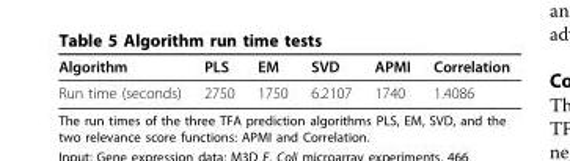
<table><thead><tr><td>Algorithm</td><td>PLS</td><td>EM</td><td>SVD</td><td>APMI</td><td>Correlation</td></tr></thead><tbody><tr><td>Run time (seconds)</td><td>2750</td><td>1750</td><td>6.2107</td><td>1740</td><td>1.4086</td></tr></tbody></table>